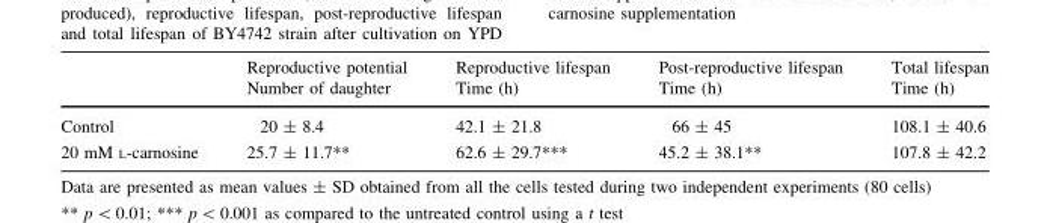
<table><thead><tr><td rowspan="2"></td><td rowspan="2">Reproductive potential Number of daughter</td><td rowspan="2">Reproductive lifespan Time (h)</td><td rowspan="2">Post-reproductive lifespan Time (h)</td><td rowspan="2">Total lifespan Time (h)</td></tr><tr></tr></thead><tbody><tr><td>Control</td><td>20 ± 8.4</td><td>42.1 ± 21.8</td><td>66 ± 45</td><td>108.1 ± 40.6</td></tr><tr><td>20 mM L-carnosine</td><td>25.7 ± 11.7**</td><td>62.6 ± 29.7***</td><td>45.2 ± 38.1**</td><td>107.8 ± 42.2</td></tr></tbody></table>